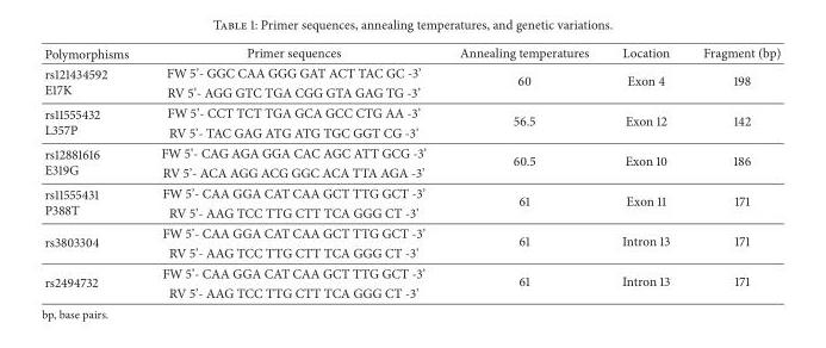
<table><thead><tr><td>Polymorphisms</td><td>Primer sequences</td><td>Annealing temperatures</td><td>Location</td><td>Fragment (bp)</td></tr></thead><tbody><tr><td rowspan="2">rs121434592 E17K</td><td>FW 5’- GGC CAA GGG GAT ACT TAC GC -3’</td><td rowspan="2">60</td><td rowspan="2">Exon 4</td><td rowspan="2">198</td></tr><tr><td>RV 5’- AGG GTC TGA CGG GTA GAG TG -3’</td></tr><tr><td rowspan="2">rs11555432 L357P</td><td>FW 5’- CCT TCT TGA GCA GCC CTG AA -3’</td><td rowspan="2">56.5</td><td rowspan="2">Exon 12</td><td rowspan="2">142</td></tr><tr><td>RV 5’- TAC GAG ATG ATG TGC GGT CG -3’</td></tr><tr><td rowspan="2">rs12881616 E319G</td><td>FW 5’- CAG AGA GGA CAC AGC ATT GCG -3’</td><td rowspan="2">60.5</td><td rowspan="2">Exon 10</td><td rowspan="2">186</td></tr><tr><td>RV 5’- ACA AGG ACG GGC ACA TTA AGA -3’</td></tr><tr><td rowspan="2">rs11555431 P388T</td><td>FW 5’- CAA GGA CAT CAA GCT TTG GCT -3’</td><td rowspan="2">61</td><td rowspan="2">Exon 11</td><td rowspan="2">171</td></tr><tr><td>RV 5’- AAG TCC TTG CTT TCA GGG CT -3’</td></tr><tr><td rowspan="2">rs3803304</td><td>FW 5’- CAA GGA CAT CAA GCT TTG GCT -3’</td><td rowspan="2">61</td><td rowspan="2">Intron 13</td><td rowspan="2">171</td></tr><tr><td>RV 5’- AAG TCC TTG CTT TCA GGG CT -3’</td></tr><tr><td rowspan="2">rs2494732</td><td>FW 5’- CAA GGA CAT CAA GCT TTG GCT -3’</td><td rowspan="2">61</td><td rowspan="2">Intron 13</td><td rowspan="2">171</td></tr><tr><td>RV 5’- AAG TCC TTG CTT TCA GGG CT -3’</td></tr></tbody></table>